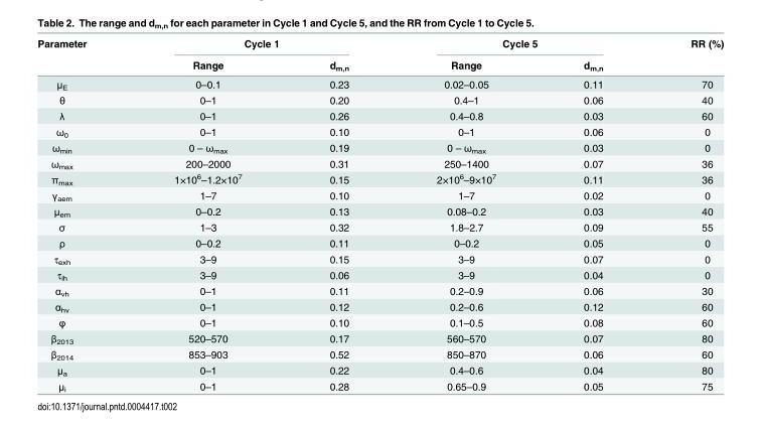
<table><thead><tr><td rowspan="2">Parameter</td><td colspan="2">Cycle 1</td><td colspan="2">Cycle 5</td><td rowspan="2">RR (%)</td></tr><tr><td>Range</td><td>d<sub>m,n</sub></td><td>Range</td><td>d<sub>m,n</sub></td></tr></thead><tbody><tr><td>μ<sub>E</sub></td><td>0–0.1</td><td>0.23</td><td>0.02–0.05</td><td>0.11</td><td>70</td></tr><tr><td>θ</td><td>0–1</td><td>0.20</td><td>0.4–1</td><td>0.06</td><td>40</td></tr><tr><td>λ</td><td>0–1</td><td>0.26</td><td>0.4–0.8</td><td>0.03</td><td>60</td></tr><tr><td>ω<sub>0</sub></td><td>0–1</td><td>0.10</td><td>0–1</td><td>0.06</td><td>0</td></tr><tr><td>ω<sub>min</sub></td><td>0 – ω<sub>max</sub></td><td>0.19</td><td>0 – ω<sub>max</sub></td><td>0.03</td><td>0</td></tr><tr><td>ω<sub>max</sub></td><td>200–2000</td><td>0.31</td><td>250–1400</td><td>0.07</td><td>36</td></tr><tr><td>π<sub>max</sub></td><td>1×10<sup>6</sup>–1.2×10<sup>7</sup></td><td>0.15</td><td>2×10<sup>6</sup>–9×10<sup>7</sup></td><td>0.11</td><td>36</td></tr><tr><td>γ<sub>aem</sub></td><td>1–7</td><td>0.10</td><td>1–7</td><td>0.02</td><td>0</td></tr><tr><td>μ<sub>em</sub></td><td>0–0.2</td><td>0.13</td><td>0.08–0.2</td><td>0.03</td><td>40</td></tr><tr><td>σ</td><td>1–3</td><td>0.32</td><td>1.8–2.7</td><td>0.09</td><td>55</td></tr><tr><td>ρ</td><td>0–0.2</td><td>0.11</td><td>0–0.2</td><td>0.05</td><td>0</td></tr><tr><td>τ<sub>exh</sub></td><td>3–9</td><td>0.15</td><td>3–9</td><td>0.07</td><td>0</td></tr><tr><td>τ<sub>ih</sub></td><td>3–9</td><td>0.06</td><td>3–9</td><td>0.04</td><td>0</td></tr><tr><td>α<sub>vh</sub></td><td>0–1</td><td>0.11</td><td>0.2–0.9</td><td>0.06</td><td>30</td></tr><tr><td>α<sub>hv</sub></td><td>0–1</td><td>0.12</td><td>0.2–0.6</td><td>0.12</td><td>60</td></tr><tr><td>φ</td><td>0–1</td><td>0.10</td><td>0.1–0.5</td><td>0.08</td><td>60</td></tr><tr><td>β<sub>2013</sub></td><td>520–570</td><td>0.17</td><td>560–570</td><td>0.07</td><td>80</td></tr><tr><td>β<sub>2014</sub></td><td>853–903</td><td>0.52</td><td>850–870</td><td>0.06</td><td>60</td></tr><tr><td>μ<sub>a</sub></td><td>0–1</td><td>0.22</td><td>0.4–0.6</td><td>0.04</td><td>80</td></tr><tr><td>μ<sub>i</sub></td><td>0–1</td><td>0.28</td><td>0.65–0.9</td><td>0.05</td><td>75</td></tr></tbody></table>